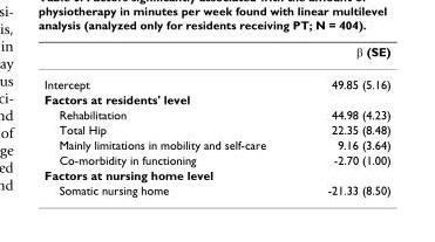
<table><thead><tr><td></td><td>β (SE)</td></tr></thead><tbody><tr><td>Intercept</td><td>49.85 (5.16)</td></tr><tr><td colspan="2">Factors at residents&#x27; level</td></tr><tr><td>Rehabilitation</td><td>44.98 (4.23)</td></tr><tr><td>Total Hip</td><td>22.35 (8.48)</td></tr><tr><td>Mainly limitations in mobility and self-care</td><td>9.16 (3.64)</td></tr><tr><td>Co-morbidity in functioning</td><td>-2.70 (1.00)</td></tr><tr><td colspan="2">Factors at nursing home level</td></tr><tr><td>Somatic nursing home</td><td>-21.33 (8.50)</td></tr></tbody></table>